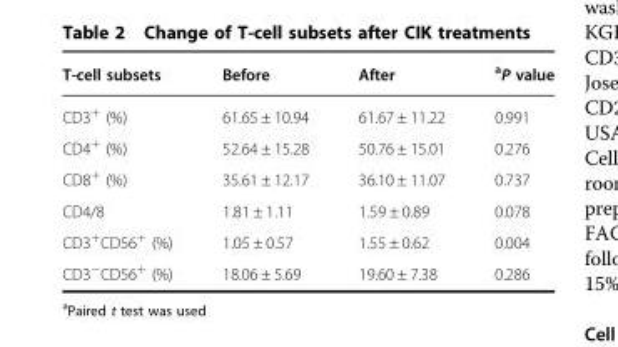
<table><thead><tr><td>T-cell subsets</td><td>Before</td><td>After</td><td><sup>a</sup>P value</td></tr></thead><tbody><tr><td>CD3<sup>+</sup> (%)</td><td>61.65 ± 10.94</td><td>61.67 ± 11.22</td><td>0.991</td></tr><tr><td>CD4<sup>+</sup> (%)</td><td>52.64 ± 15.28</td><td>50.76 ± 15.01</td><td>0.276</td></tr><tr><td>CD8<sup>+</sup> (%)</td><td>35.61 ± 12.17</td><td>36.10 ± 11.07</td><td>0.737</td></tr><tr><td>CD4/8</td><td>1.81 ± 1.11</td><td>1.59 ± 0.89</td><td>0.078</td></tr><tr><td>CD3<sup>+</sup>CD56<sup>+</sup> (%)</td><td>1.05 ± 0.57</td><td>1.55 ± 0.62</td><td>0.004</td></tr><tr><td>CD3<sup>−</sup>CD56<sup>+</sup> (%)</td><td>18.06 ± 5.69</td><td>19.60 ± 7.38</td><td>0.286</td></tr></tbody></table>